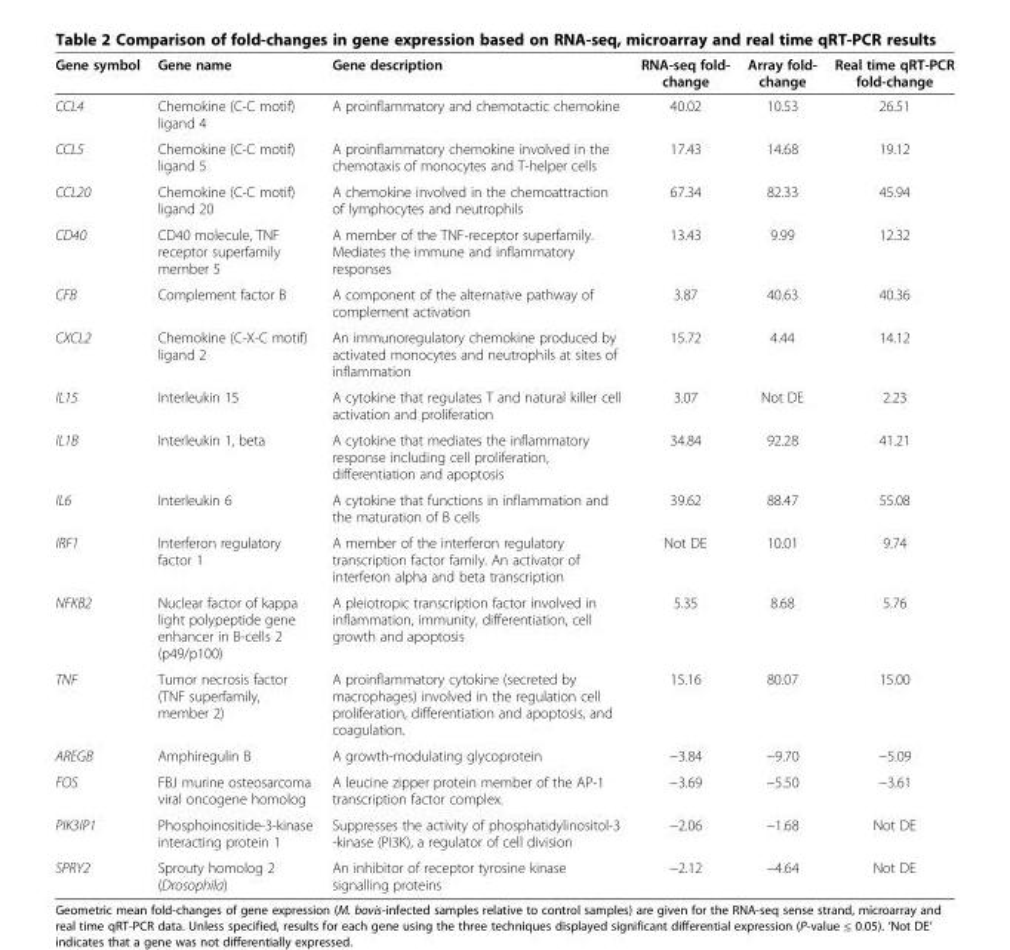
<table><thead><tr><td>Gene symbol</td><td>Gene name</td><td>Gene description</td><td>RNA-seq fold- change</td><td>Array fold- change</td><td>Real time qRT-PCR fold-change</td></tr></thead><tbody><tr><td>CCL4</td><td>Chemokine (C-C motif) ligand 4</td><td>A proinflammatory and chemotactic chemokine</td><td>40.02</td><td>10.53</td><td>26.51</td></tr><tr><td>CCL5</td><td>Chemokine (C-C motif) ligand 5</td><td>A proinflammatory chemokine involved in the chemotaxis of monocytes and T-helper cells</td><td>17.43</td><td>14.68</td><td>19.12</td></tr><tr><td>CCL20</td><td>Chemokine (C-C motif) ligand 20</td><td>A chemokine involved in the chemoattraction of lymphocytes and neutrophils</td><td>67.34</td><td>82.33</td><td>45.94</td></tr><tr><td>CD40</td><td>CD40 molecule, TNF receptor superfamily member 5</td><td>A member of the TNF-receptor superfamily. Mediates the immune and inflammatory responses</td><td>13.43</td><td>9.99</td><td>12.32</td></tr><tr><td>CFB</td><td>Complement factor B</td><td>A component of the alternative pathway of complement activation</td><td>3.87</td><td>40.63</td><td>40.36</td></tr><tr><td>CXCL2</td><td>Chemokine (C-X-C motif) ligand 2</td><td>An immunoregulatory chemokine produced by activated monocytes and neutrophils at sites of inflammation</td><td>15.72</td><td>4.44</td><td>14.12</td></tr><tr><td>IL15</td><td>Interleukin 15</td><td>A cytokine that regulates T and natural killer cell activation and proliferation</td><td>3.07</td><td>Not DE</td><td>2.23</td></tr><tr><td>IL1B</td><td>Interleukin 1, beta</td><td>A cytokine that mediates the inflammatory response including cell proliferation, differentiation and apoptosis</td><td>34.84</td><td>92.28</td><td>41.21</td></tr><tr><td>IL6</td><td>Interleukin 6</td><td>A cytokine that functions in inflammation and the maturation of B cells</td><td>39.62</td><td>88.47</td><td>55.08</td></tr><tr><td>IRF1</td><td>Interferon regulatory factor 1</td><td>A member of the interferon regulatory transcription factor family. An activator of interferon alpha and beta transcription</td><td>Not DE</td><td>10.01</td><td>9.74</td></tr><tr><td>NFKB2</td><td>Nuclear factor of kappa light polypeptide gene enhancer in B-cells 2 (p49/p100)</td><td>A pleiotropic transcription factor involved in inflammation, immunity, differentiation, cell growth and apoptosis</td><td>5.35</td><td>8.68</td><td>5.76</td></tr><tr><td>TNF</td><td>Tumor necrosis factor (TNF superfamily, member 2)</td><td>A proinflammatory cytokine (secreted by macrophages) involved in the regulation cell proliferation, differentiation and apoptosis, and coagulation.</td><td>15.16</td><td>80.07</td><td>15.00</td></tr><tr><td>AREGB</td><td>Amphiregulin B</td><td>A growth-modulating glycoprotein</td><td>−3.84</td><td>−9.70</td><td>−5.09</td></tr><tr><td>FOS</td><td>FBJ murine osteosarcoma viral oncogene homolog</td><td>A leucine zipper protein member of the AP-1 transcription factor complex.</td><td>−3.69</td><td>−5.50</td><td>−3.61</td></tr><tr><td>PIK3IP1</td><td>Phosphoinositide-3-kinase interacting protein 1</td><td>Suppresses the activity of phosphatidylinositol-3 -kinase (PI3K), a regulator of cell division</td><td>−2.06</td><td>−1.68</td><td>Not DE</td></tr><tr><td>SPRY2</td><td>Sprouty homolog 2 (Drosophila)</td><td>An inhibitor of receptor tyrosine kinase signalling proteins</td><td>−2.12</td><td>−4.64</td><td>Not DE</td></tr></tbody></table>